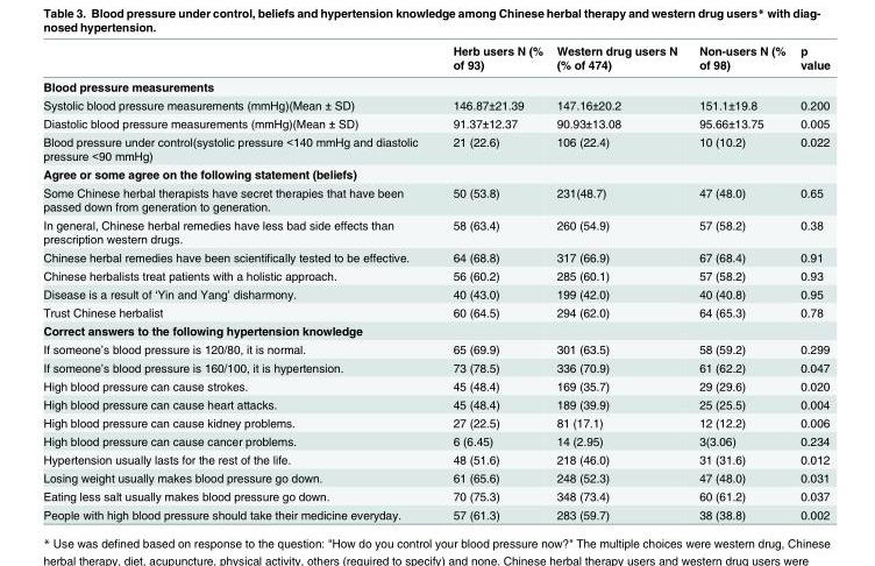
<table><thead><tr><td></td><td>Herb users N (% of 93)</td><td>Western drug users N (% of 474)</td><td>Non-users N (% of 98)</td><td>p value</td></tr></thead><tbody><tr><td colspan="5">Blood pressure measurements</td></tr><tr><td>Systolic blood pressure measurements (mmHg)(Mean ± SD)</td><td>146.87±21.39</td><td>147.16±20.2</td><td>151.1±19.8</td><td>0.200</td></tr><tr><td>Diastolic blood pressure measurements (mmHg)(Mean ± SD)</td><td>91.37±12.37</td><td>90.93±13.08</td><td>95.66±13.75</td><td>0.005</td></tr><tr><td>Blood pressure under control(systolic pressure &lt;140 mmHg and diastolic pressure &lt;90 mmHg)</td><td>21 (22.6)</td><td>106 (22.4)</td><td>10 (10.2)</td><td>0.022</td></tr><tr><td colspan="5">Agree or some agree on the following statement (beliefs)</td></tr><tr><td>Some Chinese herbal therapists have secret therapies that have been passed down from generation to generation.</td><td>50 (53.8)</td><td>231(48.7)</td><td>47 (48.0)</td><td>0.65</td></tr><tr><td>In general, Chinese herbal remedies have less bad side effects than prescription western drugs.</td><td>58 (63.4)</td><td>260 (54.9)</td><td>57 (58.2)</td><td>0.38</td></tr><tr><td>Chinese herbal remedies have been scientifically tested to be effective.</td><td>64 (68.8)</td><td>317 (66.9)</td><td>67 (68.4)</td><td>0.91</td></tr><tr><td>Chinese herbalists treat patients with a holistic approach.</td><td>56 (60.2)</td><td>285 (60.1)</td><td>57 (58.2)</td><td>0.93</td></tr><tr><td>Disease is a result of ‘Yin and Yang’ disharmony.</td><td>40 (43.0)</td><td>199 (42.0)</td><td>40 (40.8)</td><td>0.95</td></tr><tr><td>Trust Chinese herbalist</td><td>60 (64.5)</td><td>294 (62.0)</td><td>64 (65.3)</td><td>0.78</td></tr><tr><td colspan="5">Correct answers to the following hypertension knowledge</td></tr><tr><td>If someone’s blood pressure is 120/80, it is normal.</td><td>65 (69.9)</td><td>301 (63.5)</td><td>58 (59.2)</td><td>0.299</td></tr><tr><td>If someone’s blood pressure is 160/100, it is hypertension.</td><td>73 (78.5)</td><td>336 (70.9)</td><td>61 (62.2)</td><td>0.047</td></tr><tr><td>High blood pressure can cause strokes.</td><td>45 (48.4)</td><td>169 (35.7)</td><td>29 (29.6)</td><td>0.020</td></tr><tr><td>High blood pressure can cause heart attacks.</td><td>45 (48.4)</td><td>189 (39.9)</td><td>25 (25.5)</td><td>0.004</td></tr><tr><td>High blood pressure can cause kidney problems.</td><td>27 (22.5)</td><td>81 (17.1)</td><td>12 (12.2)</td><td>0.006</td></tr><tr><td>High blood pressure can cause cancer problems.</td><td>6 (6.45)</td><td>14 (2.95)</td><td>3(3.06)</td><td>0.234</td></tr><tr><td>Hypertension usually lasts for the rest of the life.</td><td>48 (51.6)</td><td>218 (46.0)</td><td>31 (31.6)</td><td>0.012</td></tr><tr><td>Losing weight usually makes blood pressure go down.</td><td>61 (65.6)</td><td>248 (52.3)</td><td>47 (48.0)</td><td>0.031</td></tr><tr><td>Eating less salt usually makes blood pressure go down.</td><td>70 (75.3)</td><td>348 (73.4)</td><td>60 (61.2)</td><td>0.037</td></tr><tr><td>People with high blood pressure should take their medicine everyday.</td><td>57 (61.3)</td><td>283 (59.7)</td><td>38 (38.8)</td><td>0.002</td></tr></tbody></table>